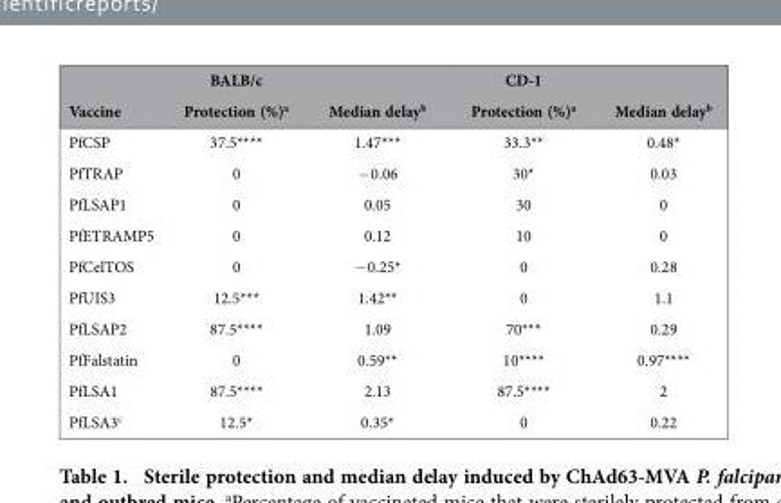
<table><thead><tr><td rowspan="2">Vaccine</td><td rowspan="2">BALB/c Protection (%)<sup>a</sup></td><td rowspan="2">Median delay<sup>b</sup></td><td rowspan="2">CD-1 Protection (%)<sup>a</sup></td><td rowspan="2">Median delay<sup>b</sup></td></tr><tr></tr></thead><tbody><tr><td>PfCSP</td><td>37.5****</td><td>1.47***</td><td>33.3**</td><td>0.48*</td></tr><tr><td>PfTRAP</td><td>0</td><td>− 0.06</td><td>30*</td><td>0.03</td></tr><tr><td>PfLSAP1</td><td>0</td><td>0.05</td><td>30</td><td>0</td></tr><tr><td>PfETRAMP5</td><td>0</td><td>0.12</td><td>10</td><td>0</td></tr><tr><td>PfCelTOS</td><td>0</td><td>− 0.25*</td><td>0</td><td>0.28</td></tr><tr><td>PfUIS3</td><td>12.5***</td><td>1.42**</td><td>0</td><td>1.1</td></tr><tr><td>PfLSAP2</td><td>87.5****</td><td>1.09</td><td>70***</td><td>0.29</td></tr><tr><td>PfFalstatin</td><td>0</td><td>0.59**</td><td>10****</td><td>0.97****</td></tr><tr><td>PfLSA1</td><td>87.5****</td><td>2.13</td><td>87.5****</td><td>2</td></tr><tr><td>PfLSA3<sup>c</sup></td><td>12.5*</td><td>0.35*</td><td>0</td><td>0.22</td></tr></tbody></table>